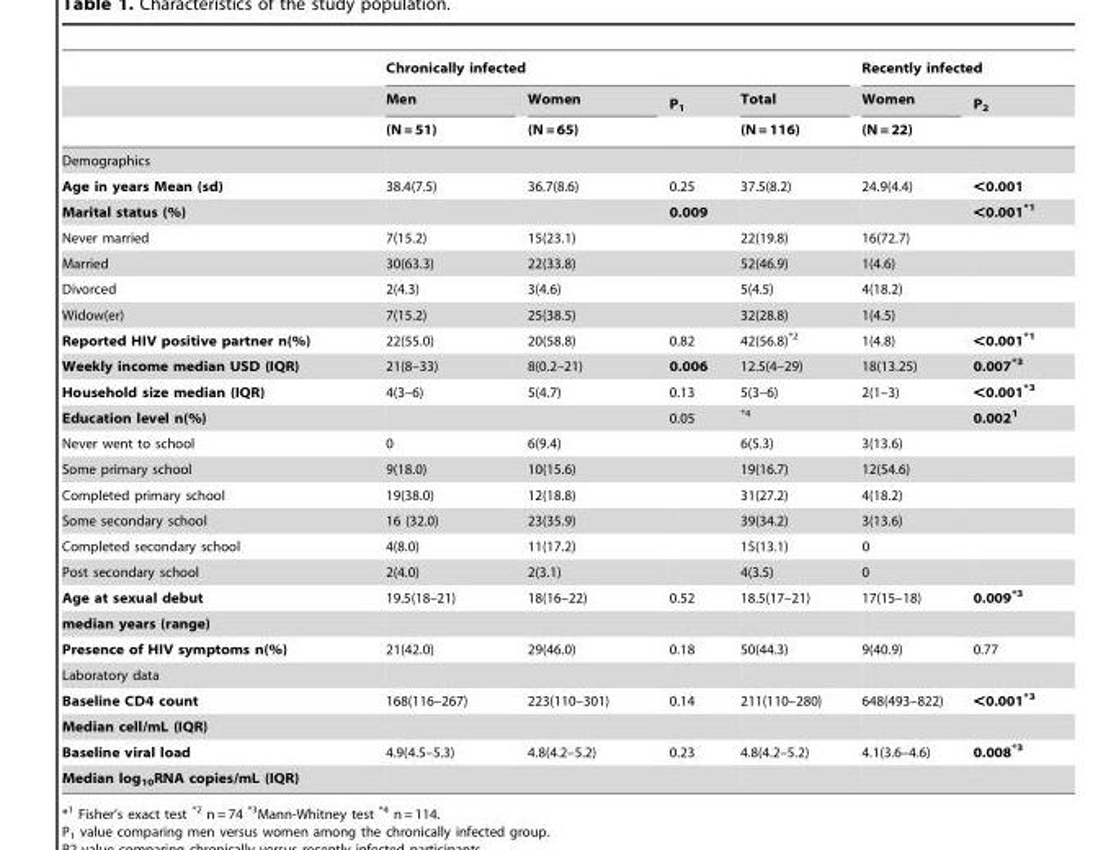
<table><thead><tr><td rowspan="3"></td><td colspan="4">Chronically infected</td><td colspan="2">Recently infected</td></tr><tr><td rowspan="2">Men (N = 51)</td><td rowspan="2">Women (N = 65)</td><td rowspan="2">P<sub>1</sub></td><td rowspan="2">Total (N = 116)</td><td rowspan="2">Women (N = 22)</td><td rowspan="2">P<sub>2</sub></td></tr><tr></tr></thead><tbody><tr><td colspan="7">Demographics</td></tr><tr><td>Age in years Mean (sd)</td><td>38.4(7.5)</td><td>36.7(8.6)</td><td>0.25</td><td>37.5(8.2)</td><td>24.9(4.4)</td><td>&lt;0.001</td></tr><tr><td>Marital status (%)</td><td></td><td></td><td>0.009</td><td></td><td></td><td>&lt;0.001<sup>*1</sup></td></tr><tr><td>Never married</td><td>7(15.2)</td><td>15(23.1)</td><td></td><td>22(19.8)</td><td>16(72.7)</td><td></td></tr><tr><td>Married</td><td>30(63.3)</td><td>22(33.8)</td><td></td><td>52(46.9)</td><td>1(4.6)</td><td></td></tr><tr><td>Divorced</td><td>2(4.3)</td><td>3(4.6)</td><td></td><td>5(4.5)</td><td>4(18.2)</td><td></td></tr><tr><td>Widow(er)</td><td>7(15.2)</td><td>25(38.5)</td><td></td><td>32(28.8)</td><td>1(4.5)</td><td></td></tr><tr><td>Reported HIV positive partner n(%)</td><td>22(55.0)</td><td>20(58.8)</td><td>0.82</td><td>42(56.8)<sup>*2</sup></td><td>1(4.8)</td><td>&lt;0.001<sup>*1</sup></td></tr><tr><td>Weekly income median USD (IQR)</td><td>21(8–33)</td><td>8(0.2–21)</td><td>0.006</td><td>12.5(4–29)</td><td>18(13.25)</td><td>0.007<sup>*3</sup></td></tr><tr><td>Household size median (IQR)</td><td>4(3–6)</td><td>5(4.7)</td><td>0.13</td><td>5(3–6)</td><td>2(1–3)</td><td>&lt;0.001<sup>*3</sup></td></tr><tr><td>Education level n(%)</td><td></td><td></td><td>0.05</td><td><sup>*4</sup></td><td></td><td>0.002<sup>1</sup></td></tr><tr><td>Never went to school</td><td>0</td><td>6(9.4)</td><td></td><td>6(5.3)</td><td>3(13.6)</td><td></td></tr><tr><td>Some primary school</td><td>9(18.0)</td><td>10(15.6)</td><td></td><td>19(16.7)</td><td>12(54.6)</td><td></td></tr><tr><td>Completed primary school</td><td>19(38.0)</td><td>12(18.8)</td><td></td><td>31(27.2)</td><td>4(18.2)</td><td></td></tr><tr><td>Some secondary school</td><td>16 (32.0)</td><td>23(35.9)</td><td></td><td>39(34.2)</td><td>3(13.6)</td><td></td></tr><tr><td>Completed secondary school</td><td>4(8.0)</td><td>11(17.2)</td><td></td><td>15(13.1)</td><td>0</td><td></td></tr><tr><td>Post secondary school</td><td>2(4.0)</td><td>2(3.1)</td><td></td><td>4(3.5)</td><td>0</td><td></td></tr><tr><td>Age at sexual debut</td><td>19.5(18–21)</td><td>18(16–22)</td><td>0.52</td><td>18.5(17–21)</td><td>17(15–18)</td><td>0.009<sup>*3</sup></td></tr><tr><td colspan="7">median years (range)</td></tr><tr><td>Presence of HIV symptoms n(%)</td><td>21(42.0)</td><td>29(46.0)</td><td>0.18</td><td>50(44.3)</td><td>9(40.9)</td><td>0.77</td></tr><tr><td colspan="7">Laboratory data</td></tr><tr><td>Baseline CD4 count</td><td>168(116–267)</td><td>223(110–301)</td><td>0.14</td><td>211(110–280)</td><td>648(493–822)</td><td>&lt;0.001<sup>*3</sup></td></tr><tr><td colspan="7">Median cell/mL (IQR)</td></tr><tr><td>Baseline viral load</td><td>4.9(4.5–5.3)</td><td>4.8(4.2–5.2)</td><td>0.23</td><td>4.8(4.2–5.2)</td><td>4.1(3.6–4.6)</td><td>0.008<sup>*3</sup></td></tr><tr><td>Median log<sub>10</sub>RNA copies/mL (IQR)</td><td></td><td></td><td></td><td></td><td></td><td></td></tr></tbody></table>